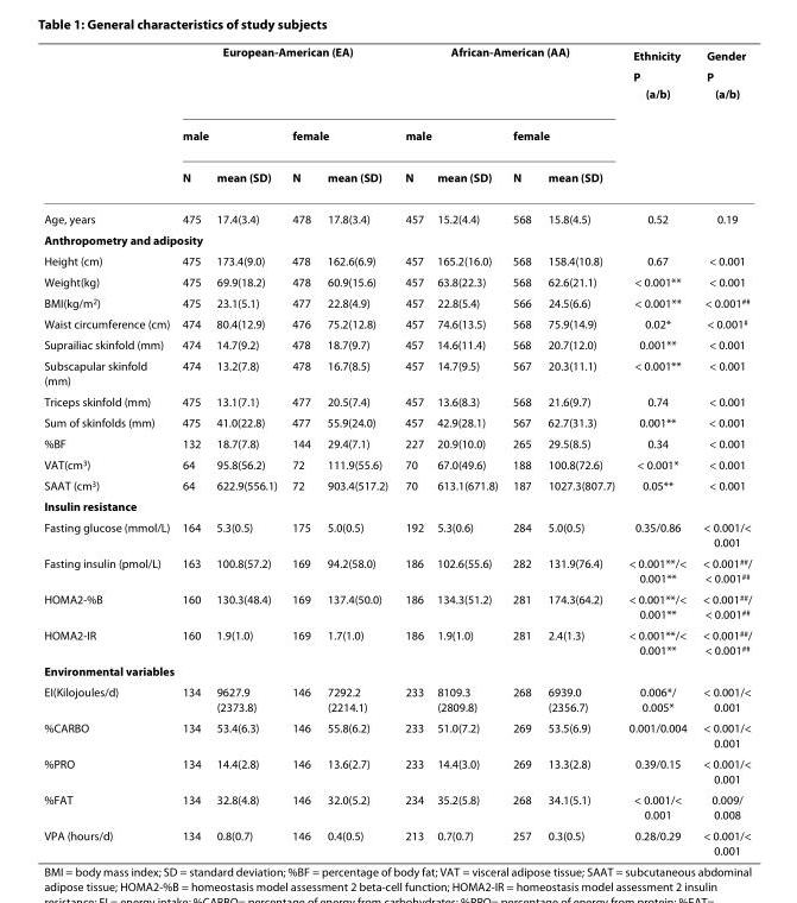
<table><thead><tr><td rowspan="3"></td><td colspan="4">European-American (EA)</td><td colspan="4">African-American (AA)</td><td rowspan="3">Ethnicity P (a/b)</td><td rowspan="3">Gender P (a/b)</td></tr><tr><td colspan="2">male</td><td colspan="2">female</td><td colspan="2">male</td><td colspan="2">female</td></tr><tr><td>N</td><td>mean (SD)</td><td>N</td><td>mean (SD)</td><td>N</td><td>mean (SD)</td><td>N</td><td>mean (SD)</td></tr></thead><tbody><tr><td>Age, years</td><td>475</td><td>17.4(3.4)</td><td>478</td><td>17.8(3.4)</td><td>457</td><td>15.2(4.4)</td><td>568</td><td>15.8(4.5)</td><td>0.52</td><td>0.19</td></tr><tr><td colspan="11">Anthropometry and adiposity</td></tr><tr><td>Height (cm)</td><td>475</td><td>173.4(9.0)</td><td>478</td><td>162.6(6.9)</td><td>457</td><td>165.2(16.0)</td><td>568</td><td>158.4(10.8)</td><td>0.67</td><td>&lt; 0.001</td></tr><tr><td>Weight(kg)</td><td>475</td><td>69.9(18.2)</td><td>478</td><td>60.9(15.6)</td><td>457</td><td>63.8(22.3)</td><td>568</td><td>62.6(21.1)</td><td>&lt; 0.001**</td><td>&lt; 0.001</td></tr><tr><td>BMI(kg/m<sup>2</sup>)</td><td>475</td><td>23.1(5.1)</td><td>477</td><td>22.8(4.9)</td><td>457</td><td>22.8(5.4)</td><td>566</td><td>24.5(6.6)</td><td>&lt; 0.001**</td><td>&lt; 0.001<sup>##</sup></td></tr><tr><td>Waist circumference (cm)</td><td>474</td><td>80.4(12.9)</td><td>476</td><td>75.2(12.8)</td><td>457</td><td>74.6(13.5)</td><td>568</td><td>75.9(14.9)</td><td>0.02*</td><td>&lt; 0.001<sup>#</sup></td></tr><tr><td>Suprailiac skinfold (mm)</td><td>474</td><td>14.7(9.2)</td><td>478</td><td>18.7(9.7)</td><td>457</td><td>14.6(11.4)</td><td>568</td><td>20.7(12.0)</td><td>0.001**</td><td>&lt; 0.001</td></tr><tr><td>Subscapular skinfold (mm)</td><td>474</td><td>13.2(7.8)</td><td>478</td><td>16.7(8.5)</td><td>457</td><td>14.7(9.5)</td><td>567</td><td>20.3(11.1)</td><td>&lt; 0.001**</td><td>&lt; 0.001</td></tr><tr><td>Triceps skinfold (mm)</td><td>475</td><td>13.1(7.1)</td><td>477</td><td>20.5(7.4)</td><td>457</td><td>13.6(8.3)</td><td>568</td><td>21.6(9.7)</td><td>0.74</td><td>&lt; 0.001</td></tr><tr><td>Sum of skinfolds (mm)</td><td>475</td><td>41.0(22.8)</td><td>477</td><td>55.9(24.0)</td><td>457</td><td>42.9(28.1)</td><td>567</td><td>62.7(31.3)</td><td>0.001**</td><td>&lt; 0.001</td></tr><tr><td>%BF</td><td>132</td><td>18.7(7.8)</td><td>144</td><td>29.4(7.1)</td><td>227</td><td>20.9(10.0)</td><td>265</td><td>29.5(8.5)</td><td>0.34</td><td>&lt; 0.001</td></tr><tr><td>VAT(cm<sup>3</sup>)</td><td>64</td><td>95.8(56.2)</td><td>72</td><td>111.9(55.6)</td><td>70</td><td>67.0(49.6)</td><td>188</td><td>100.8(72.6)</td><td>&lt; 0.001*</td><td>&lt; 0.001</td></tr><tr><td>SAAT (cm<sup>3</sup>)</td><td>64</td><td>622.9(556.1)</td><td>72</td><td>903.4(517.2)</td><td>70</td><td>613.1(671.8)</td><td>187</td><td>1027.3(807.7)</td><td>0.05**</td><td>&lt; 0.001</td></tr><tr><td colspan="11">Insulin resistance</td></tr><tr><td>Fasting glucose (mmol/L)</td><td>164</td><td>5.3(0.5)</td><td>175</td><td>5.0(0.5)</td><td>192</td><td>5.3(0.6)</td><td>284</td><td>5.0(0.5)</td><td>0.35/0.86</td><td>&lt; 0.001/&lt; 0.001</td></tr><tr><td>Fasting insulin (pmol/L)</td><td>163</td><td>100.8(57.2)</td><td>169</td><td>94.2(58.0)</td><td>186</td><td>102.6(55.6)</td><td>282</td><td>131.9(76.4)</td><td>&lt; 0.001**/&lt; 0.001**</td><td>&lt; 0.001<sup>##</sup>/ &lt; 0.001<sup>##</sup></td></tr><tr><td>HOMA2-%B</td><td>160</td><td>130.3(48.4)</td><td>169</td><td>137.4(50.0)</td><td>186</td><td>134.3(51.2)</td><td>281</td><td>174.3(64.2)</td><td>&lt; 0.001**/&lt; 0.001**</td><td>&lt; 0.001<sup>##</sup>/ &lt; 0.001<sup>##</sup></td></tr><tr><td>HOMA2-IR</td><td>160</td><td>1.9(1.0)</td><td>169</td><td>1.7(1.0)</td><td>186</td><td>1.9(1.0)</td><td>281</td><td>2.4(1.3)</td><td>&lt; 0.001**/&lt; 0.001**</td><td>&lt; 0.001<sup>##</sup>/ &lt; 0.001<sup>##</sup></td></tr><tr><td colspan="11">Environmental variables</td></tr><tr><td>EI(Kilojoules/d)</td><td>134</td><td>9627.9 (2373.8)</td><td>146</td><td>7292.2 (2214.1)</td><td>233</td><td>8109.3 (2809.8)</td><td>268</td><td>6939.0 (2356.7)</td><td>0.006*/ 0.005*</td><td>&lt; 0.001/&lt; 0.001</td></tr><tr><td>%CARBO</td><td>134</td><td>53.4(6.3)</td><td>146</td><td>55.8(6.2)</td><td>233</td><td>51.0(7.2)</td><td>269</td><td>53.5(6.9)</td><td>0.001/0.004</td><td>&lt; 0.001/&lt; 0.001</td></tr><tr><td>%PRO</td><td>134</td><td>14.4(2.8)</td><td>146</td><td>13.6(2.7)</td><td>233</td><td>14.4(3.0)</td><td>269</td><td>13.3(2.8)</td><td>0.39/0.15</td><td>&lt; 0.001/&lt; 0.001</td></tr><tr><td>%FAT</td><td>134</td><td>32.8(4.8)</td><td>146</td><td>32.0(5.2)</td><td>234</td><td>35.2(5.8)</td><td>268</td><td>34.1(5.1)</td><td>&lt; 0.001/&lt; 0.001</td><td>0.009/ 0.008</td></tr><tr><td>VPA (hours/d)</td><td>134</td><td>0.8(0.7)</td><td>146</td><td>0.4(0.5)</td><td>213</td><td>0.7(0.7)</td><td>257</td><td>0.3(0.5)</td><td>0.28/0.29</td><td>&lt; 0.001/&lt; 0.001</td></tr></tbody></table>